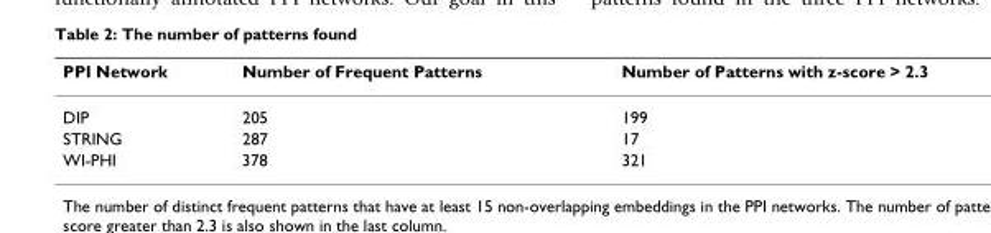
<table><thead><tr><td>PPI Network</td><td>Number of Frequent Patterns</td><td>Number of Patterns with z-score &gt; 2.3</td></tr></thead><tbody><tr><td>DIP</td><td>205</td><td>199</td></tr><tr><td>STRING</td><td>287</td><td>17</td></tr><tr><td>WI-PHI</td><td>378</td><td>321</td></tr></tbody></table>